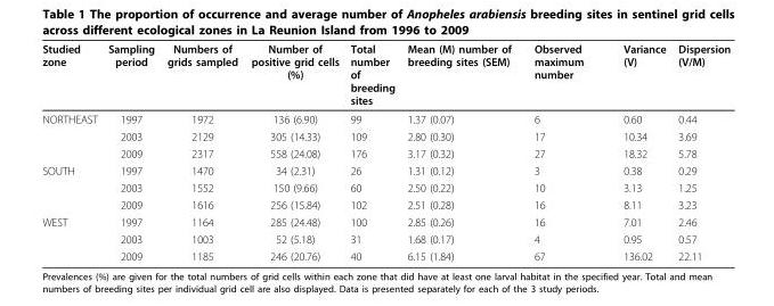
<table><thead><tr><td>Studied zone</td><td>Sampling period</td><td>Numbers of grids sampled</td><td>Number of positive grid cells (%)</td><td>Total number of breeding sites</td><td>Mean (M) number of breeding sites (SEM)</td><td>Observed maximum number</td><td>Variance (V)</td><td>Dispersion (V/M)</td></tr></thead><tbody><tr><td rowspan="3">NORTHEAST</td><td>1997</td><td>1972</td><td>136 (6.90)</td><td>99</td><td>1.37 (0.07)</td><td>6</td><td>0.60</td><td>0.44</td></tr><tr><td>2003</td><td>2129</td><td>305 (14.33)</td><td>109</td><td>2.80 (0.30)</td><td>17</td><td>10.34</td><td>3.69</td></tr><tr><td>2009</td><td>2317</td><td>558 (24.08)</td><td>176</td><td>3.17 (0.32)</td><td>27</td><td>18.32</td><td>5.78</td></tr><tr><td rowspan="3">SOUTH</td><td>1997</td><td>1470</td><td>34 (2.31)</td><td>26</td><td>1.31 (0.12)</td><td>3</td><td>0.38</td><td>0.29</td></tr><tr><td>2003</td><td>1552</td><td>150 (9.66)</td><td>60</td><td>2.50 (0.22)</td><td>10</td><td>3.13</td><td>1.25</td></tr><tr><td>2009</td><td>1616</td><td>256 (15.84)</td><td>102</td><td>2.51 (0.28)</td><td>16</td><td>8.11</td><td>3.23</td></tr><tr><td rowspan="3">WEST</td><td>1997</td><td>1164</td><td>285 (24.48)</td><td>100</td><td>2.85 (0.26)</td><td>16</td><td>7.01</td><td>2.46</td></tr><tr><td>2003</td><td>1003</td><td>52 (5.18)</td><td>31</td><td>1.68 (0.17)</td><td>4</td><td>0.95</td><td>0.57</td></tr><tr><td>2009</td><td>1185</td><td>246 (20.76)</td><td>40</td><td>6.15 (1.84)</td><td>67</td><td>136.02</td><td>22.11</td></tr></tbody></table>